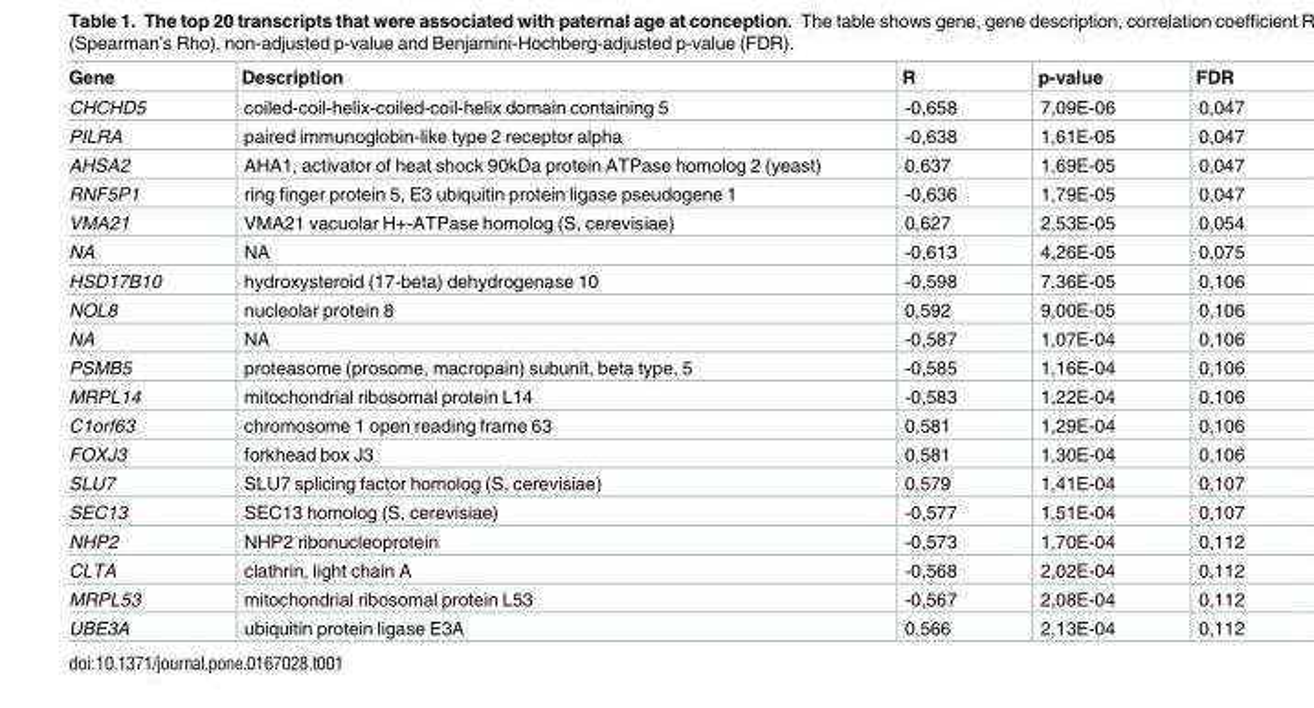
<table><thead><tr><td>Gene</td><td>Description</td><td>R</td><td>p-value</td><td>FDR</td></tr></thead><tbody><tr><td>CHCHD5</td><td>coiled-coil-helix-coiled-coil-helix domain containing 5</td><td>-0,658</td><td>7,09E-06</td><td>0,047</td></tr><tr><td>PILRA</td><td>paired immunoglobin-like type 2 receptor alpha</td><td>-0,638</td><td>1,61E-05</td><td>0,047</td></tr><tr><td>AHSA2</td><td>AHA1, activator of heat shock 90kDa protein ATPase homolog 2 (yeast)</td><td>0,637</td><td>1,69E-05</td><td>0,047</td></tr><tr><td>RNF5P1</td><td>ring finger protein 5, E3 ubiquitin protein ligase pseudogene 1</td><td>-0,636</td><td>1,79E-05</td><td>0,047</td></tr><tr><td>VMA21</td><td>VMA21 vacuolar H+-ATPase homolog (S, cerevisiae)</td><td>0,627</td><td>2,53E-05</td><td>0,054</td></tr><tr><td>NA</td><td>NA</td><td>-0,613</td><td>4,26E-05</td><td>0,075</td></tr><tr><td>HSD17B10</td><td>hydroxysteroid (17-beta) dehydrogenase 10</td><td>-0,598</td><td>7,36E-05</td><td>0,106</td></tr><tr><td>NOL8</td><td>nucleolar protein 8</td><td>0,592</td><td>9,00E-05</td><td>0,106</td></tr><tr><td>NA</td><td>NA</td><td>-0,587</td><td>1,07E-04</td><td>0,106</td></tr><tr><td>PSMB5</td><td>proteasome (prosome, macropain) subunit, beta type, 5</td><td>-0,585</td><td>1,16E-04</td><td>0,106</td></tr><tr><td>MRPL14</td><td>mitochondrial ribosomal protein L14</td><td>-0,583</td><td>1,22E-04</td><td>0,106</td></tr><tr><td>C1orf63</td><td>chromosome 1 open reading frame 63</td><td>0,581</td><td>1,29E-04</td><td>0,106</td></tr><tr><td>FOXJ3</td><td>forkhead box J3</td><td>0,581</td><td>1,30E-04</td><td>0,106</td></tr><tr><td>SLU7</td><td>SLU7 splicing factor homolog (S, cerevisiae)</td><td>0,579</td><td>1,41E-04</td><td>0,107</td></tr><tr><td>SEC13</td><td>SEC13 homolog (S, cerevisiae)</td><td>-0,577</td><td>1,51E-04</td><td>0,107</td></tr><tr><td>NHP2</td><td>NHP2 ribonucleoprotein</td><td>-0,573</td><td>1,70E-04</td><td>0,112</td></tr><tr><td>CLTA</td><td>clathrin, light chain A</td><td>-0,568</td><td>2,02E-04</td><td>0,112</td></tr><tr><td>MRPL53</td><td>mitochondrial ribosomal protein L53</td><td>-0,567</td><td>2,08E-04</td><td>0,112</td></tr><tr><td>UBE3A</td><td>ubiquitin protein ligase E3A</td><td>0,566</td><td>2,13E-04</td><td>0,112</td></tr></tbody></table>